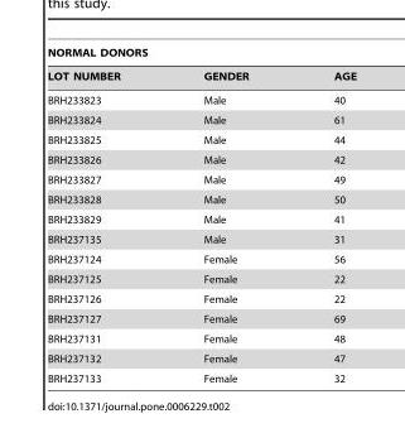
<table><thead><tr><td colspan="3">NORMAL DONORS</td></tr><tr><td>LOT NUMBER</td><td>GENDER</td><td>AGE</td></tr></thead><tbody><tr><td>BRH233823</td><td>Male</td><td>40</td></tr><tr><td>BRH233824</td><td>Male</td><td>61</td></tr><tr><td>BRH233825</td><td>Male</td><td>44</td></tr><tr><td>BRH233826</td><td>Male</td><td>42</td></tr><tr><td>BRH233827</td><td>Male</td><td>49</td></tr><tr><td>BRH233828</td><td>Male</td><td>50</td></tr><tr><td>BRH233829</td><td>Male</td><td>41</td></tr><tr><td>BRH237135</td><td>Male</td><td>31</td></tr><tr><td>BRH237124</td><td>Female</td><td>56</td></tr><tr><td>BRH237125</td><td>Female</td><td>22</td></tr><tr><td>BRH237126</td><td>Female</td><td>22</td></tr><tr><td>BRH237127</td><td>Female</td><td>69</td></tr><tr><td>BRH237131</td><td>Female</td><td>48</td></tr><tr><td>BRH237132</td><td>Female</td><td>47</td></tr><tr><td>BRH237133</td><td>Female</td><td>32</td></tr></tbody></table>